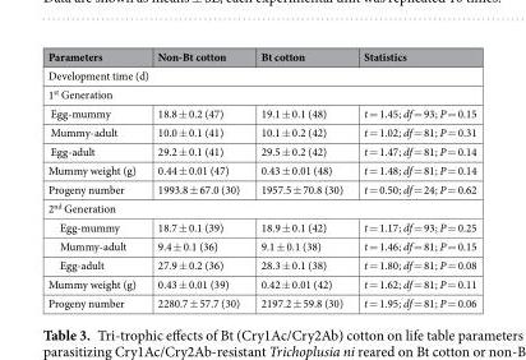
<table><thead><tr><td>Parameters</td><td>Non-Bt cotton</td><td>Bt cotton</td><td>Statistics</td></tr></thead><tbody><tr><td colspan="4">Development time (d)</td></tr><tr><td colspan="4">1<sup>st</sup> Generation</td></tr><tr><td>Egg-mummy</td><td>18.8 ± 0.2 (47)</td><td>19.1 ± 0.1 (48)</td><td>t = 1.45; df = 93; P = 0.15</td></tr><tr><td>Mummy-adult</td><td>10.0 ± 0.1 (41)</td><td>10.1 ± 0.2 (42)</td><td>t = 1.02; df = 81; P = 0.31</td></tr><tr><td>Egg-adult</td><td>29.2 ± 0.1 (41)</td><td>29.5 ± 0.2 (42)</td><td>t = 1.47; df = 81; P = 0.14</td></tr><tr><td>Mummy weight (g)</td><td>0.44 ± 0.01 (47)</td><td>0.43 ± 0.01 (48)</td><td>t = 1.48; df = 81; P = 0.14</td></tr><tr><td>Progeny number</td><td>1993.8 ± 67.0 (30)</td><td>1957.5 ± 70.8 (30)</td><td>t = 0.50; df = 24; P = 0.62</td></tr><tr><td colspan="4">2<sup>nd</sup> Generation</td></tr><tr><td>Egg-mummy</td><td>18.7 ± 0.1 (39)</td><td>18.9 ± 0.1 (42)</td><td>t = 1.17; df = 93; P = 0.25</td></tr><tr><td>Mummy-adult</td><td>9.4 ± 0.1 (36)</td><td>9.1 ± 0.1 (38)</td><td>t = 1.46; df = 81; P = 0.15</td></tr><tr><td>Egg-adult</td><td>27.9 ± 0.2 (36)</td><td>28.3 ± 0.1 (38)</td><td>t = 1.80; df = 81; P = 0.08</td></tr><tr><td>Mummy weight (g)</td><td>0.43 ± 0.01 (39)</td><td>0.42 ± 0.01 (42)</td><td>t = 1.62; df = 81; P = 0.11</td></tr><tr><td>Progeny number</td><td>2280.7 ± 57.7 (30)</td><td>2197.2 ± 59.8 (30)</td><td>t = 1.95; df = 81; P = 0.06</td></tr></tbody></table>